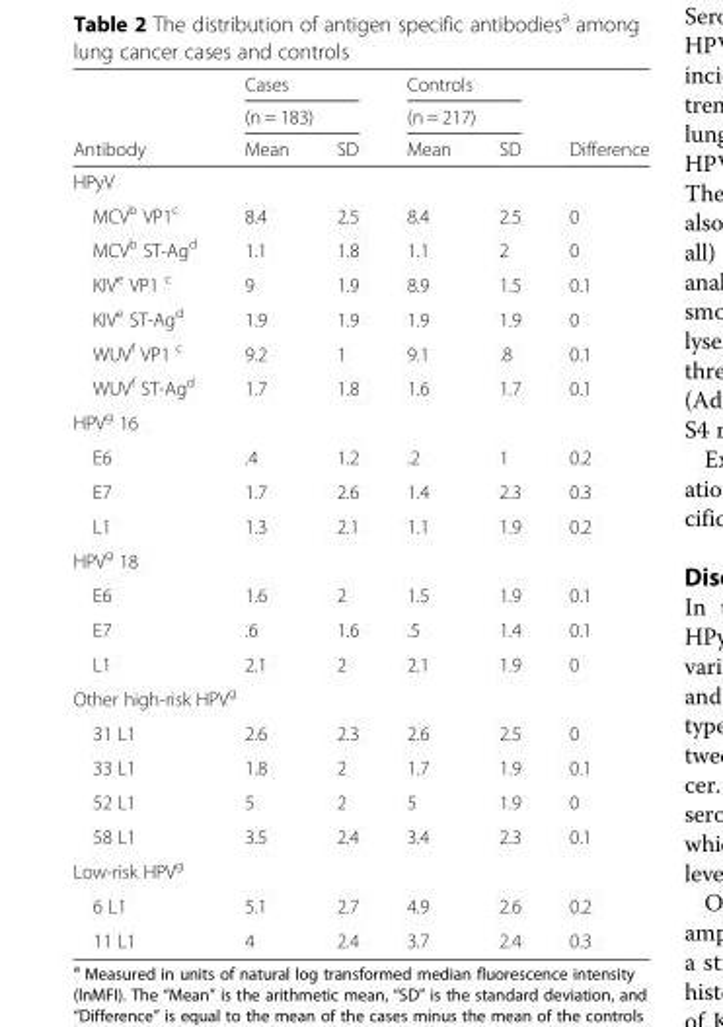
<table><thead><tr><td rowspan="3">Antibody</td><td rowspan="2" colspan="2">Cases (n = 183)</td><td rowspan="2" colspan="2">Controls (n = 217)</td><td rowspan="3">Difference</td></tr><tr></tr><tr><td>Mean</td><td>SD</td><td>Mean</td><td>SD</td></tr></thead><tbody><tr><td colspan="6">HPyV</td></tr><tr><td>MCV<sup>b</sup> VP1<sup>c</sup></td><td>8.4</td><td>2.5</td><td>8.4</td><td>2.5</td><td>0</td></tr><tr><td>MCV<sup>b</sup> ST-Ag<sup>d</sup></td><td>1.1</td><td>1.8</td><td>1.1</td><td>2</td><td>0</td></tr><tr><td>KIV<sup>e</sup> VP1 <sup>c</sup></td><td>9</td><td>1.9</td><td>8.9</td><td>1.5</td><td>0.1</td></tr><tr><td>KIV<sup>e</sup> ST-Ag<sup>d</sup></td><td>1.9</td><td>1.9</td><td>1.9</td><td>1.9</td><td>0</td></tr><tr><td>WUV<sup>f</sup> VP1 <sup>c</sup></td><td>9.2</td><td>1</td><td>9.1</td><td>.8</td><td>0.1</td></tr><tr><td>WUV<sup>f</sup> ST-Ag<sup>d</sup></td><td>1.7</td><td>1.8</td><td>1.6</td><td>1.7</td><td>0.1</td></tr><tr><td colspan="6">HPV<sup>g</sup> 16</td></tr><tr><td>E6</td><td>.4</td><td>1.2</td><td>.2</td><td>1</td><td>0.2</td></tr><tr><td>E7</td><td>1.7</td><td>2.6</td><td>1.4</td><td>2.3</td><td>0.3</td></tr><tr><td>L1</td><td>1.3</td><td>2.1</td><td>1.1</td><td>1.9</td><td>0.2</td></tr><tr><td colspan="6">HPV<sup>g</sup> 18</td></tr><tr><td>E6</td><td>1.6</td><td>2</td><td>1.5</td><td>1.9</td><td>0.1</td></tr><tr><td>E7</td><td>.6</td><td>1.6</td><td>.5</td><td>1.4</td><td>0.1</td></tr><tr><td>L1</td><td>2.1</td><td>2</td><td>2.1</td><td>1.9</td><td>0</td></tr><tr><td colspan="6">Other high-risk HPV<sup>g</sup></td></tr><tr><td>31 L1</td><td>2.6</td><td>2.3</td><td>2.6</td><td>2.5</td><td>0</td></tr><tr><td>33 L1</td><td>1.8</td><td>2</td><td>1.7</td><td>1.9</td><td>0.1</td></tr><tr><td>52 L1</td><td>5</td><td>2</td><td>5</td><td>1.9</td><td>0</td></tr><tr><td>58 L1</td><td>3.5</td><td>2.4</td><td>3.4</td><td>2.3</td><td>0.1</td></tr><tr><td colspan="6">Low-risk HPV<sup>g</sup></td></tr><tr><td>6 L1</td><td>5.1</td><td>2.7</td><td>4.9</td><td>2.6</td><td>0.2</td></tr><tr><td>11 L1</td><td>4</td><td>2.4</td><td>3.7</td><td>2.4</td><td>0.3</td></tr></tbody></table>